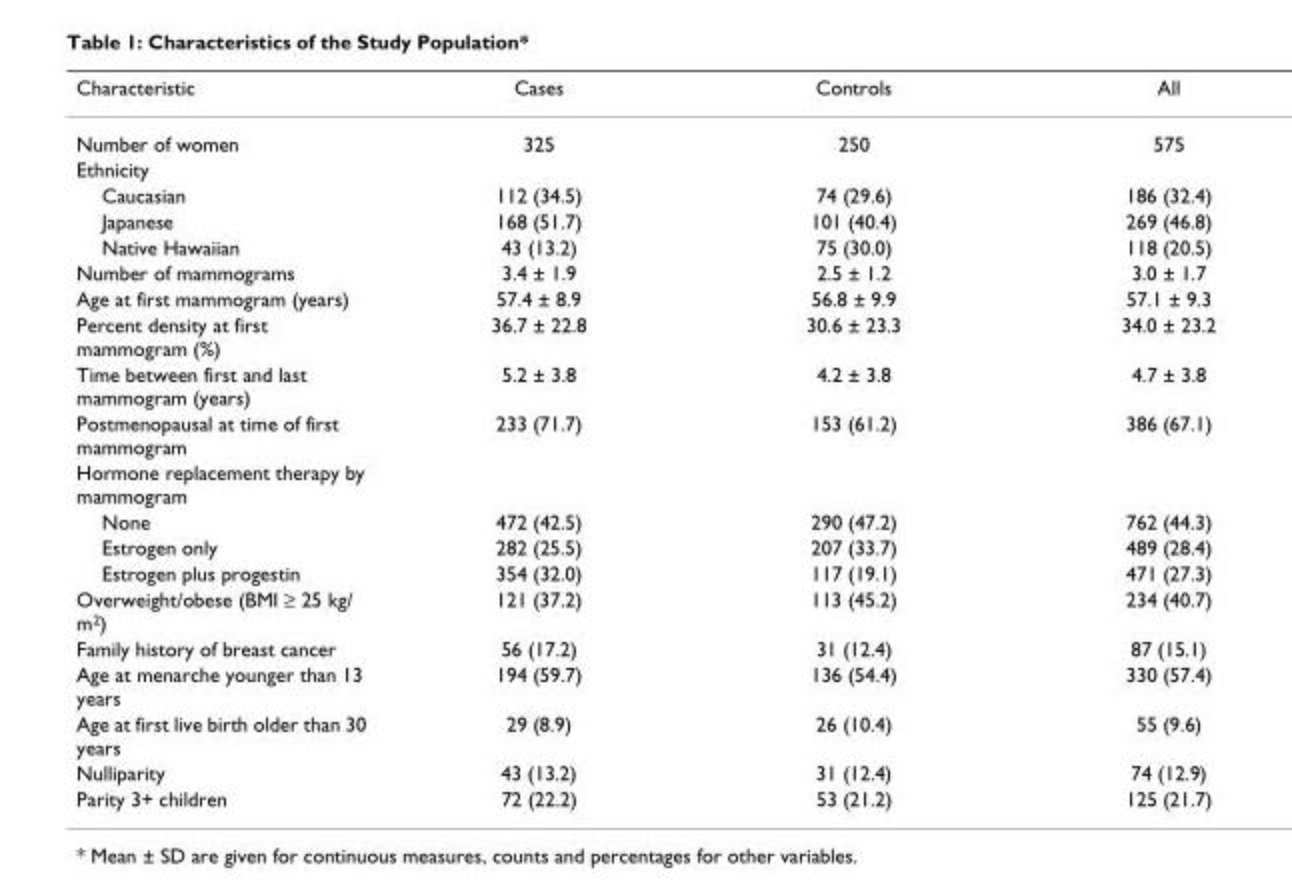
<table><thead><tr><td>Characteristic</td><td>Cases</td><td>Controls</td><td>All</td></tr></thead><tbody><tr><td>Number of women</td><td>325</td><td>250</td><td>575</td></tr><tr><td colspan="4">Ethnicity</td></tr><tr><td>Caucasian</td><td>112 (34.5)</td><td>74 (29.6)</td><td>186 (32.4)</td></tr><tr><td>Japanese</td><td>168 (51.7)</td><td>101 (40.4)</td><td>269 (46.8)</td></tr><tr><td>Native Hawaiian</td><td>43 (13.2)</td><td>75 (30.0)</td><td>118 (20.5)</td></tr><tr><td>Number of mammograms</td><td>3.4 ± 1.9</td><td>2.5 ± 1.2</td><td>3.0 ± 1.7</td></tr><tr><td>Age at first mammogram (years)</td><td>57.4 ± 8.9</td><td>56.8 ± 9.9</td><td>57.1 ± 9.3</td></tr><tr><td>Percent density at first mammogram (%)</td><td>36.7 ± 22.8</td><td>30.6 ± 23.3</td><td>34.0 ± 23.2</td></tr><tr><td>Time between first and last mammogram (years)</td><td>5.2 ± 3.8</td><td>4.2 ± 3.8</td><td>4.7 ± 3.8</td></tr><tr><td>Postmenopausal at time of first mammogram</td><td>233 (71.7)</td><td>153 (61.2)</td><td>386 (67.1)</td></tr><tr><td colspan="4">Hormone replacement therapy by mammogram</td></tr><tr><td>None</td><td>472 (42.5)</td><td>290 (47.2)</td><td>762 (44.3)</td></tr><tr><td>Estrogen only</td><td>282 (25.5)</td><td>207 (33.7)</td><td>489 (28.4)</td></tr><tr><td>Estrogen plus progestin</td><td>354 (32.0)</td><td>117 (19.1)</td><td>471 (27.3)</td></tr><tr><td>Overweight/obese (BMI ≥ 25 kg/ m2)</td><td>121 (37.2)</td><td>113 (45.2)</td><td>234 (40.7)</td></tr><tr><td>Family history of breast cancer</td><td>56 (17.2)</td><td>31 (12.4)</td><td>87 (15.1)</td></tr><tr><td>Age at menarche younger than 13 years</td><td>194 (59.7)</td><td>136 (54.4)</td><td>330 (57.4)</td></tr><tr><td>Age at first live birth older than 30 years</td><td>29 (8.9)</td><td>26 (10.4)</td><td>55 (9.6)</td></tr><tr><td>Nulliparity</td><td>43 (13.2)</td><td>31 (12.4)</td><td>74 (12.9)</td></tr><tr><td>Parity 3+ children</td><td>72 (22.2)</td><td>53 (21.2)</td><td>125 (21.7)</td></tr></tbody></table>